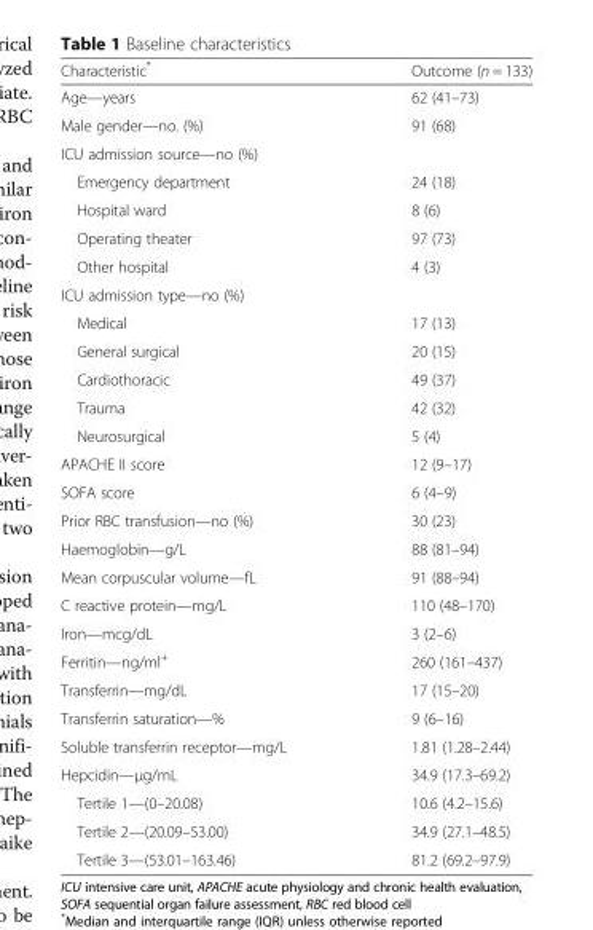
<table><thead><tr><td>Characteristic*</td><td>Outcome (n = 133)</td></tr></thead><tbody><tr><td>Age—years</td><td>62 (41–73)</td></tr><tr><td>Male gender—no. (%)</td><td>91 (68)</td></tr><tr><td colspan="2">ICU admission source—no (%)</td></tr><tr><td>Emergency department</td><td>24 (18)</td></tr><tr><td>Hospital ward</td><td>8 (6)</td></tr><tr><td>Operating theater</td><td>97 (73)</td></tr><tr><td>Other hospital</td><td>4 (3)</td></tr><tr><td colspan="2">ICU admission type—no (%)</td></tr><tr><td>Medical</td><td>17 (13)</td></tr><tr><td>General surgical</td><td>20 (15)</td></tr><tr><td>Cardiothoracic</td><td>49 (37)</td></tr><tr><td>Trauma</td><td>42 (32)</td></tr><tr><td>Neurosurgical</td><td>5 (4)</td></tr><tr><td>APACHE II score</td><td>12 (9–17)</td></tr><tr><td>SOFA score</td><td>6 (4–9)</td></tr><tr><td>Prior RBC transfusion—no (%)</td><td>30 (23)</td></tr><tr><td>Haemoglobin—g/L</td><td>88 (81–94)</td></tr><tr><td>Mean corpuscular volume—fL</td><td>91 (88–94)</td></tr><tr><td>C reactive protein—mg/L</td><td>110 (48–170)</td></tr><tr><td>Iron—mcg/dL</td><td>3 (2–6)</td></tr><tr><td>Ferritin—ng/ml<sup>+</sup></td><td>260 (161–437)</td></tr><tr><td>Transferrin—mg/dL</td><td>17 (15–20)</td></tr><tr><td>Transferrin saturation—%</td><td>9 (6–16)</td></tr><tr><td>Soluble transferrin receptor—mg/L</td><td>1.81 (1.28–2.44)</td></tr><tr><td>Hepcidin—μg/mL</td><td>34.9 (17.3–69.2)</td></tr><tr><td>Tertile 1—(0–20.08)</td><td>10.6 (4.2–15.6)</td></tr><tr><td>Tertile 2—(20.09–53.00)</td><td>34.9 (27.1–48.5)</td></tr><tr><td>Tertile 3—(53.01–163.46)</td><td>81.2 (69.2–97.9)</td></tr></tbody></table>